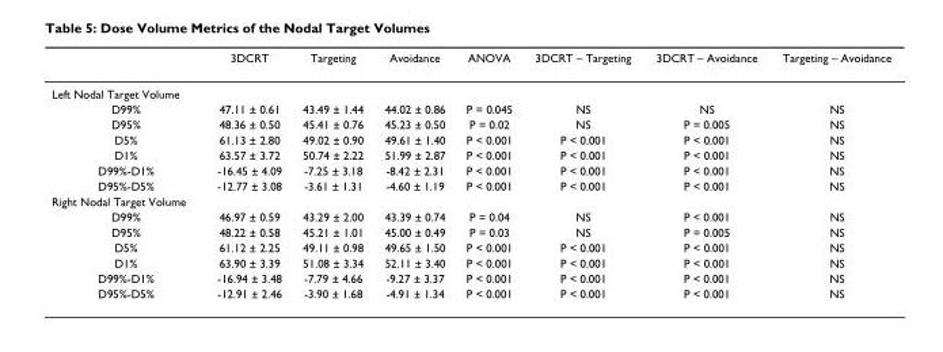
<table><thead><tr><td></td><td>3DCRT</td><td>Targeting</td><td>Avoidance</td><td>ANOVA</td><td>3DCRT – Targeting</td><td>3DCRT – Avoidance</td><td>Targeting – Avoidance</td></tr></thead><tbody><tr><td colspan="8">Left Nodal Target Volume</td></tr><tr><td>D99%</td><td>47.11 ± 0.61</td><td>43.49 ± 1.44</td><td>44.02 ± 0.86</td><td>P = 0.045</td><td>NS</td><td>NS</td><td>NS</td></tr><tr><td>D95%</td><td>48.36 ± 0.50</td><td>45.41 ± 0.76</td><td>45.23 ± 0.50</td><td>P = 0.02</td><td>NS</td><td>P = 0.005</td><td>NS</td></tr><tr><td>D5%</td><td>61.13 ± 2.80</td><td>49.02 ± 0.90</td><td>49.61 ± 1.40</td><td>P &lt; 0.001</td><td>P &lt; 0.001</td><td>P &lt; 0.001</td><td>NS</td></tr><tr><td>D1%</td><td>63.57 ± 3.72</td><td>50.74 ± 2.22</td><td>51.99 ± 2.87</td><td>P &lt; 0.001</td><td>P &lt; 0.001</td><td>P &lt; 0.001</td><td>NS</td></tr><tr><td>D99%-D1%</td><td>-16.45 ± 4.09</td><td>-7.25 ± 3.18</td><td>-8.42 ± 2.31</td><td>P &lt; 0.001</td><td>P &lt; 0.001</td><td>P &lt; 0.001</td><td>NS</td></tr><tr><td>D95%-D5%</td><td>-12.77 ± 3.08</td><td>-3.61 ± 1.31</td><td>-4.60 ± 1.19</td><td>P &lt; 0.001</td><td>P &lt; 0.001</td><td>P &lt; 0.001</td><td>NS</td></tr><tr><td colspan="8">Right Nodal Target Volume</td></tr><tr><td>D99%</td><td>46.97 ± 0.59</td><td>43.29 ± 2.00</td><td>43.39 ± 0.74</td><td>P = 0.04</td><td>NS</td><td>P &lt; 0.001</td><td>NS</td></tr><tr><td>D95%</td><td>48.22 ± 0.58</td><td>45.21 ± 1.01</td><td>45.00 ± 0.49</td><td>P = 0.03</td><td>NS</td><td>P = 0.005</td><td>NS</td></tr><tr><td>D5%</td><td>61.12 ± 2.25</td><td>49.11 ± 0.98</td><td>49.65 ± 1.50</td><td>P &lt; 0.001</td><td>P &lt; 0.001</td><td>P &lt; 0.001</td><td>NS</td></tr><tr><td>D1%</td><td>63.90 ± 3.39</td><td>51.08 ± 3.34</td><td>52.11 ± 3.40</td><td>P &lt; 0.001</td><td>P &lt; 0.001</td><td>P &lt; 0.001</td><td>NS</td></tr><tr><td>D99%-D1%</td><td>-16.94 ± 3.48</td><td>-7.79 ± 4.66</td><td>-9.27 ± 3.37</td><td>P &lt; 0.001</td><td>P &lt; 0.001</td><td>P &lt; 0.001</td><td>NS</td></tr><tr><td>D95%-D5%</td><td>-12.91 ± 2.46</td><td>-3.90 ± 1.68</td><td>-4.91 ± 1.34</td><td>P &lt; 0.001</td><td>P &lt; 0.001</td><td>P &lt; 0.001</td><td>NS</td></tr></tbody></table>